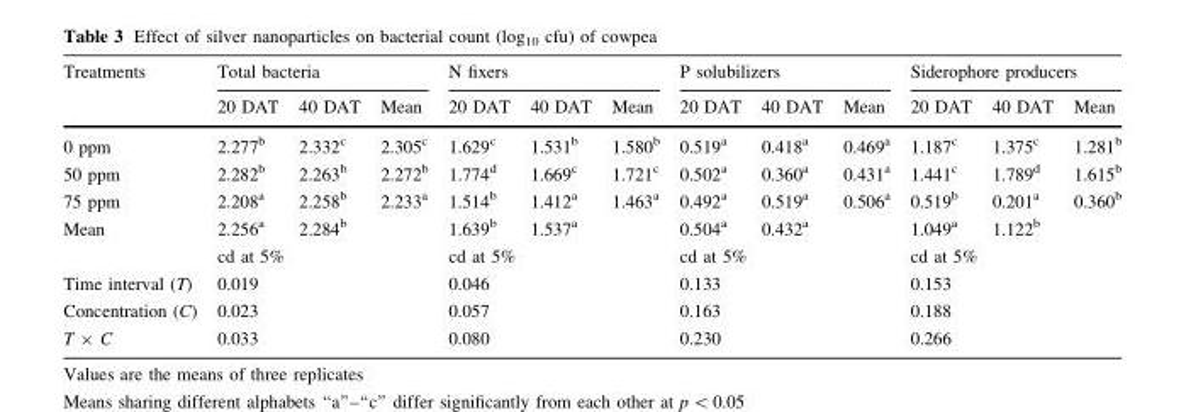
<table><thead><tr><td rowspan="2">Treatments</td><td colspan="3">Total bacteria</td><td colspan="3">N fixers</td><td colspan="3">P solubilizers</td><td colspan="3">Siderophore producers</td></tr><tr><td>20 DAT</td><td>40 DAT</td><td>Mean</td><td>20 DAT</td><td>40 DAT</td><td>Mean</td><td>20 DAT</td><td>40 DAT</td><td>Mean</td><td>20 DAT</td><td>40 DAT</td><td>Mean</td></tr></thead><tbody><tr><td>0 ppm</td><td>2.277<sup>b</sup></td><td>2.332<sup>c</sup></td><td>2.305<sup>c</sup></td><td>1.629<sup>c</sup></td><td>1.531<sup>b</sup></td><td>1.580<sup>b</sup></td><td>0.519<sup>a</sup></td><td>0.418<sup>a</sup></td><td>0.469<sup>a</sup></td><td>1.187<sup>c</sup></td><td>1.375<sup>c</sup></td><td>1.281<sup>b</sup></td></tr><tr><td>50 ppm</td><td>2.282<sup>b</sup></td><td>2.263<sup>b</sup></td><td>2.272<sup>b</sup></td><td>1.774<sup>d</sup></td><td>1.669<sup>c</sup></td><td>1.721<sup>c</sup></td><td>0.502<sup>a</sup></td><td>0.360<sup>a</sup></td><td>0.431<sup>a</sup></td><td>1.441<sup>c</sup></td><td>1.789<sup>d</sup></td><td>1.615<sup>b</sup></td></tr><tr><td>75 ppm</td><td>2.208<sup>a</sup></td><td>2.258<sup>b</sup></td><td>2.233<sup>a</sup></td><td>1.514<sup>b</sup></td><td>1.412<sup>a</sup></td><td>1.463<sup>a</sup></td><td>0.492<sup>a</sup></td><td>0.519<sup>a</sup></td><td>0.506<sup>a</sup></td><td>0.519<sup>b</sup></td><td>0.201<sup>a</sup></td><td>0.360<sup>b</sup></td></tr><tr><td rowspan="2">Mean</td><td>2.256<sup>a</sup></td><td>2.284<sup>b</sup></td><td></td><td>1.639<sup>b</sup></td><td>1.537<sup>a</sup></td><td></td><td>0.504<sup>a</sup></td><td>0.432<sup>a</sup></td><td></td><td>1.049<sup>a</sup></td><td>1.122<sup>b</sup></td><td></td></tr><tr><td colspan="2">cd at 5%</td><td></td><td colspan="2">cd at 5%</td><td></td><td colspan="2">cd at 5%</td><td></td><td colspan="2">cd at 5%</td><td></td></tr><tr><td>Time interval (T)</td><td colspan="2">0.019</td><td></td><td colspan="2">0.046</td><td></td><td colspan="2">0.133</td><td></td><td colspan="2">0.153</td><td></td></tr><tr><td>Concentration (C)</td><td colspan="2">0.023</td><td></td><td colspan="2">0.057</td><td></td><td colspan="2">0.163</td><td></td><td colspan="2">0.188</td><td></td></tr><tr><td>T × C</td><td colspan="2">0.033</td><td></td><td colspan="2">0.080</td><td></td><td colspan="2">0.230</td><td></td><td colspan="2">0.266</td><td></td></tr></tbody></table>